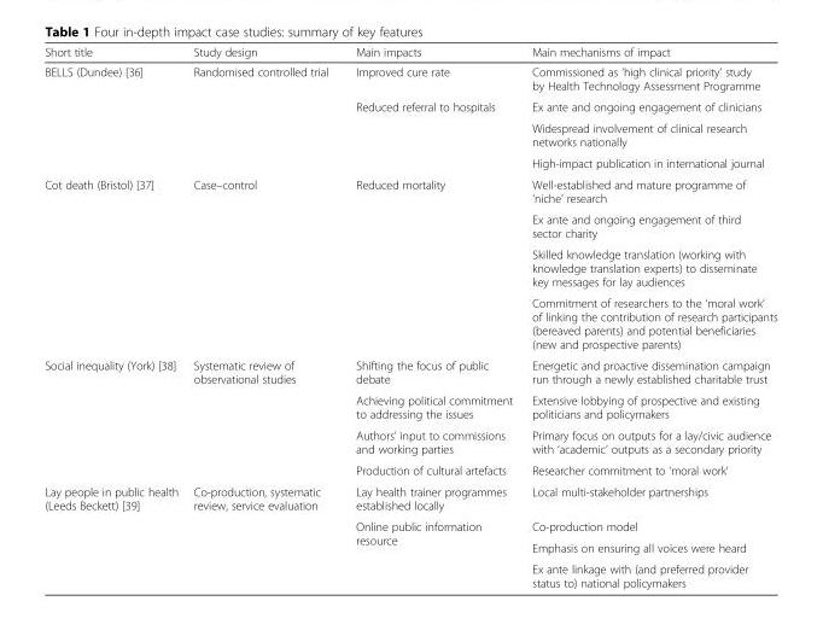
<table><thead><tr><td>Short title</td><td>Study design</td><td>Main impacts</td><td>Main mechanisms of impact</td></tr></thead><tbody><tr><td rowspan="4">BELLS (Dundee) [36]</td><td rowspan="4">Randomised controlled trial</td><td>Improved cure rate</td><td>Commissioned as ‘high clinical priority’ study by Health Technology Assessment Programme</td></tr><tr><td rowspan="3">Reduced referral to hospitals</td><td>Ex ante and ongoing engagement of clinicians</td></tr><tr><td>Widespread involvement of clinical research networks nationally</td></tr><tr><td>High-impact publication in international journal</td></tr><tr><td rowspan="4">Cot death (Bristol) [37]</td><td rowspan="4">Case–control</td><td rowspan="4">Reduced mortality</td><td>Well-established and mature programme of ‘niche’ research</td></tr><tr><td>Ex ante and ongoing engagement of third sector charity</td></tr><tr><td>Skilled knowledge translation (working with knowledge translation experts) to disseminate key messages for lay audiences</td></tr><tr><td>Commitment of researchers to the ‘moral work’ of linking the contribution of research participants (bereaved parents) and potential beneficiaries (new and prospective parents)</td></tr><tr><td rowspan="4">Social inequality (York) [38]</td><td rowspan="4">Systematic review of observational studies</td><td>Shifting the focus of public debate</td><td>Energetic and proactive dissemination campaign run through a newly established charitable trust</td></tr><tr><td>Achieving political commitment to addressing the issues</td><td>Extensive lobbying of prospective and existing politicians and policymakers</td></tr><tr><td>Authors’ input to commissions and working parties</td><td>Primary focus on outputs for a lay/civic audience with ‘academic’ outputs as a secondary priority</td></tr><tr><td>Production of cultural artefacts</td><td>Researcher commitment to ‘moral work’</td></tr><tr><td rowspan="4">Lay people in public health (Leeds Beckett) [39]</td><td rowspan="4">Co-production, systematic review, service evaluation</td><td>Lay health trainer programmes established locally</td><td>Local multi-stakeholder partnerships</td></tr><tr><td rowspan="3">Online public information resource</td><td>Co-production model</td></tr><tr><td>Emphasis on ensuring all voices were heard</td></tr><tr><td>Ex ante linkage with (and preferred provider status to) national policymakers</td></tr></tbody></table>